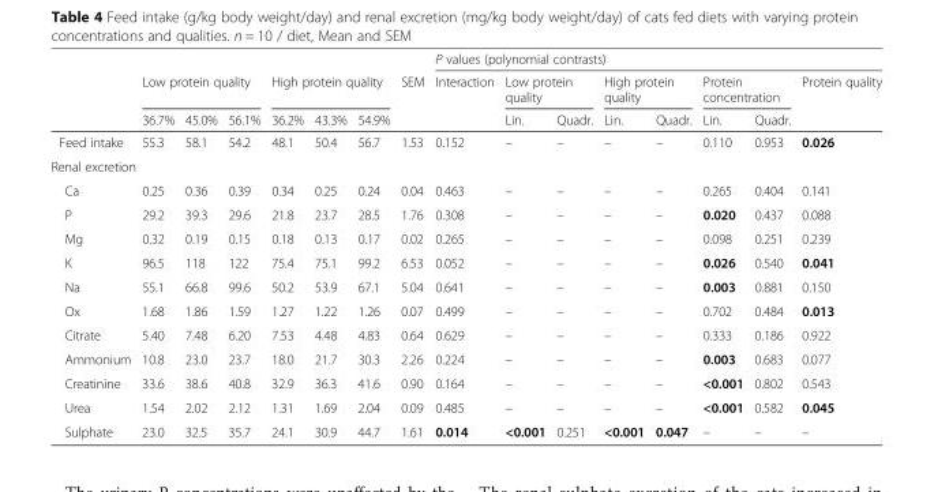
<table><thead><tr><td rowspan="3"></td><td></td><td></td><td></td><td></td><td></td><td></td><td rowspan="3">SEM</td><td colspan="8">P values (polynomial contrasts)</td></tr><tr><td colspan="3">Low protein quality</td><td colspan="3">High protein quality</td><td rowspan="2">Interaction</td><td colspan="2">Low protein quality</td><td colspan="2">High protein quality</td><td colspan="2">Protein concentration</td><td rowspan="2">Protein quality</td></tr><tr><td>36.7%</td><td>45.0%</td><td>56.1%</td><td>36.2%</td><td>43.3%</td><td>54.9%</td><td>Lin.</td><td>Quadr.</td><td>Lin.</td><td>Quadr.</td><td>Lin.</td><td>Quadr.</td></tr></thead><tbody><tr><td>Feed intake</td><td>55.3</td><td>58.1</td><td>54.2</td><td>48.1</td><td>50.4</td><td>56.7</td><td>1.53</td><td>0.152</td><td>–</td><td>–</td><td>–</td><td>–</td><td>0.110</td><td>0.953</td><td>0.026</td></tr><tr><td colspan="16">Renal excretion</td></tr><tr><td>Ca</td><td>0.25</td><td>0.36</td><td>0.39</td><td>0.34</td><td>0.25</td><td>0.24</td><td>0.04</td><td>0.463</td><td>–</td><td>–</td><td>–</td><td>–</td><td>0.265</td><td>0.404</td><td>0.141</td></tr><tr><td>P</td><td>29.2</td><td>39.3</td><td>29.6</td><td>21.8</td><td>23.7</td><td>28.5</td><td>1.76</td><td>0.308</td><td>–</td><td>–</td><td>–</td><td>–</td><td>0.020</td><td>0.437</td><td>0.088</td></tr><tr><td>Mg</td><td>0.32</td><td>0.19</td><td>0.15</td><td>0.18</td><td>0.13</td><td>0.17</td><td>0.02</td><td>0.265</td><td>–</td><td>–</td><td>–</td><td>–</td><td>0.098</td><td>0.251</td><td>0.239</td></tr><tr><td>K</td><td>96.5</td><td>118</td><td>122</td><td>75.4</td><td>75.1</td><td>99.2</td><td>6.53</td><td>0.052</td><td>–</td><td>–</td><td>–</td><td>–</td><td>0.026</td><td>0.540</td><td>0.041</td></tr><tr><td>Na</td><td>55.1</td><td>66.8</td><td>99.6</td><td>50.2</td><td>53.9</td><td>67.1</td><td>5.04</td><td>0.641</td><td>–</td><td>–</td><td>–</td><td>–</td><td>0.003</td><td>0.881</td><td>0.150</td></tr><tr><td>Ox</td><td>1.68</td><td>1.86</td><td>1.59</td><td>1.27</td><td>1.22</td><td>1.26</td><td>0.07</td><td>0.499</td><td>–</td><td>–</td><td>–</td><td>–</td><td>0.702</td><td>0.484</td><td>0.013</td></tr><tr><td>Citrate</td><td>5.40</td><td>7.48</td><td>6.20</td><td>7.53</td><td>4.48</td><td>4.83</td><td>0.64</td><td>0.629</td><td>–</td><td>–</td><td>–</td><td>–</td><td>0.333</td><td>0.186</td><td>0.922</td></tr><tr><td>Ammonium</td><td>10.8</td><td>23.0</td><td>23.7</td><td>18.0</td><td>21.7</td><td>30.3</td><td>2.26</td><td>0.224</td><td>–</td><td>–</td><td>–</td><td>–</td><td>0.003</td><td>0.683</td><td>0.077</td></tr><tr><td>Creatinine</td><td>33.6</td><td>38.6</td><td>40.8</td><td>32.9</td><td>36.3</td><td>41.6</td><td>0.90</td><td>0.164</td><td>–</td><td>–</td><td>–</td><td>–</td><td>&lt;0.001</td><td>0.802</td><td>0.543</td></tr><tr><td>Urea</td><td>1.54</td><td>2.02</td><td>2.12</td><td>1.31</td><td>1.69</td><td>2.04</td><td>0.09</td><td>0.485</td><td>–</td><td>–</td><td>–</td><td>–</td><td>&lt;0.001</td><td>0.582</td><td>0.045</td></tr><tr><td>Sulphate</td><td>23.0</td><td>32.5</td><td>35.7</td><td>24.1</td><td>30.9</td><td>44.7</td><td>1.61</td><td>0.014</td><td>&lt;0.001</td><td>0.251</td><td>&lt;0.001</td><td>0.047</td><td>–</td><td>–</td><td>–</td></tr></tbody></table>